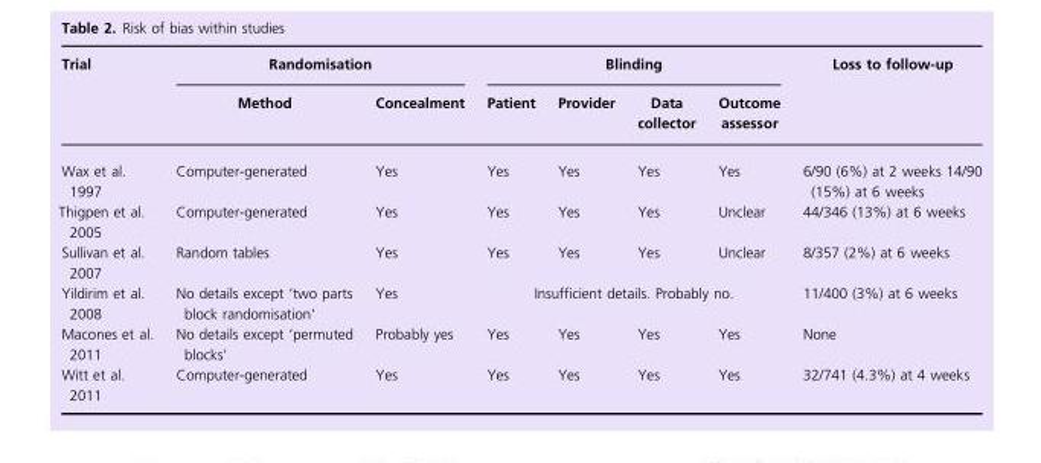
<table><thead><tr><td rowspan="2">Trial</td><td colspan="2">Randomisation</td><td colspan="4">Blinding</td><td rowspan="2">Loss to follow-up</td></tr><tr><td>Method</td><td>Concealment</td><td>Patient</td><td>Provider</td><td>Data collector</td><td>Outcome assessor</td></tr></thead><tbody><tr><td>Wax et al. 1997</td><td>Computer-generated</td><td>Yes</td><td>Yes</td><td>Yes</td><td>Yes</td><td>Yes</td><td>6/90 (6%) at 2 weeks 14/90 (15%) at 6 weeks</td></tr><tr><td>Thigpen et al. 2005</td><td>Computer-generated</td><td>Yes</td><td>Yes</td><td>Yes</td><td>Yes</td><td>Unclear</td><td>44/346 (13%) at 6 weeks</td></tr><tr><td>Sullivan et al. 2007</td><td>Random tables</td><td>Yes</td><td>Yes</td><td>Yes</td><td>Yes</td><td>Unclear</td><td>8/357 (2%) at 6 weeks</td></tr><tr><td>Yildirim et al. 2008</td><td>No details except ‘two parts block randomisation’</td><td>Yes</td><td colspan="4">Insufficient details. Probably no.</td><td>11/400 (3%) at 6 weeks</td></tr><tr><td>Macones et al. 2011</td><td>No details except ‘permuted blocks’</td><td>Probably yes</td><td>Yes</td><td>Yes</td><td>Yes</td><td>Yes</td><td>None</td></tr><tr><td>Witt et al. 2011</td><td>Computer-generated</td><td>Yes</td><td>Yes</td><td>Yes</td><td>Yes</td><td>Yes</td><td>32/741 (4.3%) at 4 weeks</td></tr></tbody></table>